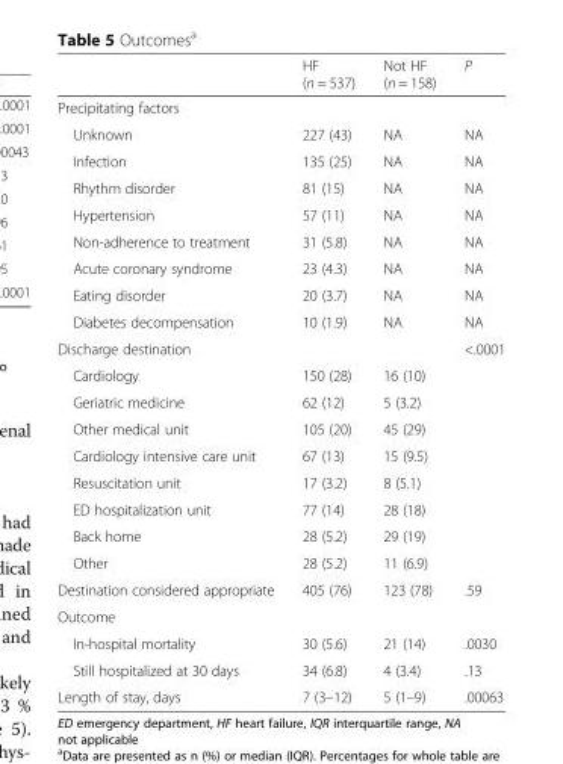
<table><thead><tr><td></td><td>HF (n = 537)</td><td>Not HF (n = 158)</td><td>P</td></tr></thead><tbody><tr><td colspan="4">Precipitating factors</td></tr><tr><td>Unknown</td><td>227 (43)</td><td>NA</td><td>NA</td></tr><tr><td>Infection</td><td>135 (25)</td><td>NA</td><td>NA</td></tr><tr><td>Rhythm disorder</td><td>81 (15)</td><td>NA</td><td>NA</td></tr><tr><td>Hypertension</td><td>57 (11)</td><td>NA</td><td>NA</td></tr><tr><td>Non-adherence to treatment</td><td>31 (5.8)</td><td>NA</td><td>NA</td></tr><tr><td>Acute coronary syndrome</td><td>23 (4.3)</td><td>NA</td><td>NA</td></tr><tr><td>Eating disorder</td><td>20 (3.7)</td><td>NA</td><td>NA</td></tr><tr><td>Diabetes decompensation</td><td>10 (1.9)</td><td>NA</td><td>NA</td></tr><tr><td>Discharge destination</td><td></td><td></td><td>&lt;.0001</td></tr><tr><td>Cardiology</td><td>150 (28)</td><td>16 (10)</td><td></td></tr><tr><td>Geriatric medicine</td><td>62 (12)</td><td>5 (3.2)</td><td></td></tr><tr><td>Other medical unit</td><td>105 (20)</td><td>45 (29)</td><td></td></tr><tr><td>Cardiology intensive care unit</td><td>67 (13)</td><td>15 (9.5)</td><td></td></tr><tr><td>Resuscitation unit</td><td>17 (3.2)</td><td>8 (5.1)</td><td></td></tr><tr><td>ED hospitalization unit</td><td>77 (14)</td><td>28 (18)</td><td></td></tr><tr><td>Back home</td><td>28 (5.2)</td><td>29 (19)</td><td></td></tr><tr><td>Other</td><td>28 (5.2)</td><td>11 (6.9)</td><td></td></tr><tr><td>Destination considered appropriate</td><td>405 (76)</td><td>123 (78)</td><td>.59</td></tr><tr><td colspan="4">Outcome</td></tr><tr><td>In-hospital mortality</td><td>30 (5.6)</td><td>21 (14)</td><td>.0030</td></tr><tr><td>Still hospitalized at 30 days</td><td>34 (6.8)</td><td>4 (3.4)</td><td>.13</td></tr><tr><td>Length of stay, days</td><td>7 (3–12)</td><td>5 (1–9)</td><td>.00063</td></tr></tbody></table>